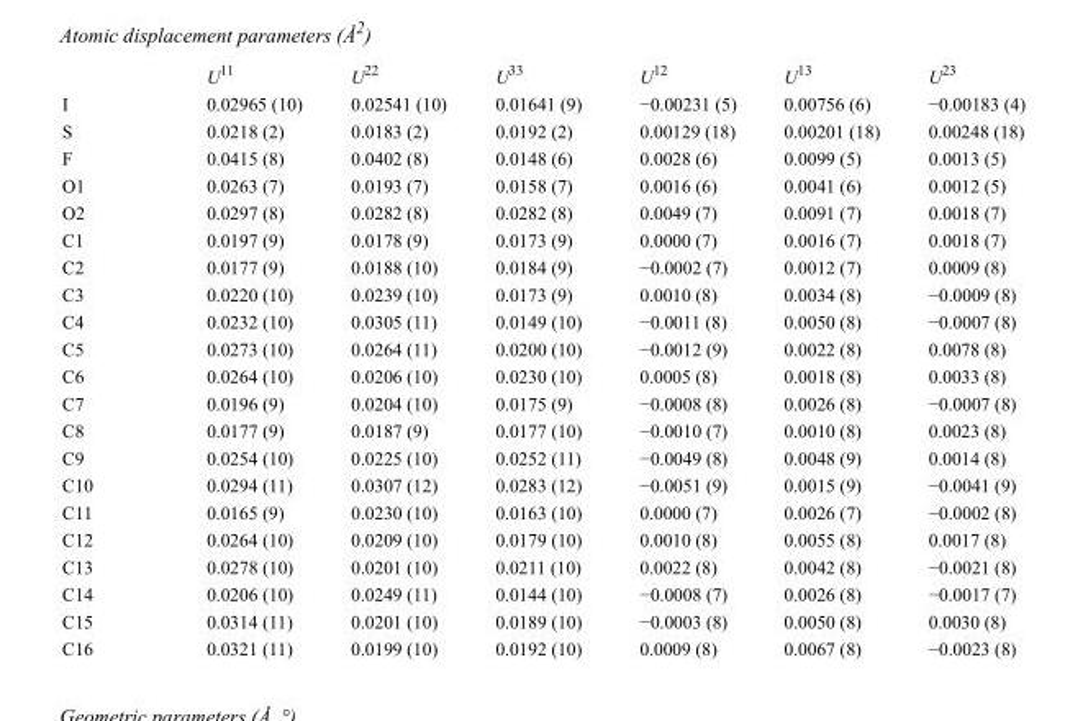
<table><thead><tr><td></td><td>U<sup>11</sup></td><td>U<sup>22</sup></td><td>U<sup>33</sup></td><td>U<sup>12</sup></td><td>U<sup>13</sup></td><td>U<sup>23</sup></td></tr></thead><tbody><tr><td>I</td><td>0.02965 (10)</td><td>0.02541 (10)</td><td>0.01641 (9)</td><td>−0.00231 (5)</td><td>0.00756 (6)</td><td>−0.00183 (4)</td></tr><tr><td>S</td><td>0.0218 (2)</td><td>0.0183 (2)</td><td>0.0192 (2)</td><td>0.00129 (18)</td><td>0.00201 (18)</td><td>0.00248 (18)</td></tr><tr><td>F</td><td>0.0415 (8)</td><td>0.0402 (8)</td><td>0.0148 (6)</td><td>0.0028 (6)</td><td>0.0099 (5)</td><td>0.0013 (5)</td></tr><tr><td>O1</td><td>0.0263 (7)</td><td>0.0193 (7)</td><td>0.0158 (7)</td><td>0.0016 (6)</td><td>0.0041 (6)</td><td>0.0012 (5)</td></tr><tr><td>O2</td><td>0.0297 (8)</td><td>0.0282 (8)</td><td>0.0282 (8)</td><td>0.0049 (7)</td><td>0.0091 (7)</td><td>0.0018 (7)</td></tr><tr><td>C1</td><td>0.0197 (9)</td><td>0.0178 (9)</td><td>0.0173 (9)</td><td>0.0000 (7)</td><td>0.0016 (7)</td><td>0.0018 (7)</td></tr><tr><td>C2</td><td>0.0177 (9)</td><td>0.0188 (10)</td><td>0.0184 (9)</td><td>−0.0002 (7)</td><td>0.0012 (7)</td><td>0.0009 (8)</td></tr><tr><td>C3</td><td>0.0220 (10)</td><td>0.0239 (10)</td><td>0.0173 (9)</td><td>0.0010 (8)</td><td>0.0034 (8)</td><td>−0.0009 (8)</td></tr><tr><td>C4</td><td>0.0232 (10)</td><td>0.0305 (11)</td><td>0.0149 (10)</td><td>−0.0011 (8)</td><td>0.0050 (8)</td><td>−0.0007 (8)</td></tr><tr><td>C5</td><td>0.0273 (10)</td><td>0.0264 (11)</td><td>0.0200 (10)</td><td>−0.0012 (9)</td><td>0.0022 (8)</td><td>0.0078 (8)</td></tr><tr><td>C6</td><td>0.0264 (10)</td><td>0.0206 (10)</td><td>0.0230 (10)</td><td>0.0005 (8)</td><td>0.0018 (8)</td><td>0.0033 (8)</td></tr><tr><td>C7</td><td>0.0196 (9)</td><td>0.0204 (10)</td><td>0.0175 (9)</td><td>−0.0008 (8)</td><td>0.0026 (8)</td><td>−0.0007 (8)</td></tr><tr><td>C8</td><td>0.0177 (9)</td><td>0.0187 (9)</td><td>0.0177 (10)</td><td>−0.0010 (7)</td><td>0.0010 (8)</td><td>0.0023 (8)</td></tr><tr><td>C9</td><td>0.0254 (10)</td><td>0.0225 (10)</td><td>0.0252 (11)</td><td>−0.0049 (8)</td><td>0.0048 (9)</td><td>0.0014 (8)</td></tr><tr><td>C10</td><td>0.0294 (11)</td><td>0.0307 (12)</td><td>0.0283 (12)</td><td>−0.0051 (9)</td><td>0.0015 (9)</td><td>−0.0041 (9)</td></tr><tr><td>C11</td><td>0.0165 (9)</td><td>0.0230 (10)</td><td>0.0163 (10)</td><td>0.0000 (7)</td><td>0.0026 (7)</td><td>−0.0002 (8)</td></tr><tr><td>C12</td><td>0.0264 (10)</td><td>0.0209 (10)</td><td>0.0179 (10)</td><td>0.0010 (8)</td><td>0.0055 (8)</td><td>0.0017 (8)</td></tr><tr><td>C13</td><td>0.0278 (10)</td><td>0.0201 (10)</td><td>0.0211 (10)</td><td>0.0022 (8)</td><td>0.0042 (8)</td><td>−0.0021 (8)</td></tr><tr><td>C14</td><td>0.0206 (10)</td><td>0.0249 (11)</td><td>0.0144 (10)</td><td>−0.0008 (7)</td><td>0.0026 (8)</td><td>−0.0017 (7)</td></tr><tr><td>C15</td><td>0.0314 (11)</td><td>0.0201 (10)</td><td>0.0189 (10)</td><td>−0.0003 (8)</td><td>0.0050 (8)</td><td>0.0030 (8)</td></tr><tr><td>C16</td><td>0.0321 (11)</td><td>0.0199 (10)</td><td>0.0192 (10)</td><td>0.0009 (8)</td><td>0.0067 (8)</td><td>−0.0023 (8)</td></tr></tbody></table>